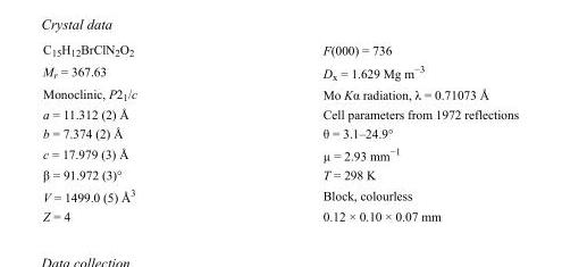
<table><tbody><tr><td>C<sub>15</sub>H<sub>12</sub>BrClN<sub>2</sub>O<sub>2</sub></td><td>F(000) = 736</td></tr><tr><td>M<sub>r</sub> = 367.63</td><td>D<sub>x</sub> = 1.629 Mg m<sup>−3</sup></td></tr><tr><td>Monoclinic, P2<sub>1</sub>/c</td><td>Mo Kα radiation, λ = 0.71073 Å</td></tr><tr><td>a = 11.312 (2) Å</td><td>Cell parameters from 1972 reflections</td></tr><tr><td>b = 7.374 (2) Å</td><td>θ = 3.1–24.9°</td></tr><tr><td>c = 17.979 (3) Å</td><td>µ = 2.93 mm<sup>−1</sup></td></tr><tr><td>β = 91.972 (3)°</td><td>T = 298 K</td></tr><tr><td>V = 1499.0 (5) Å<sup>3</sup></td><td>Block, colourless</td></tr><tr><td>Z = 4</td><td>0.12 × 0.10 × 0.07 mm</td></tr></tbody></table>